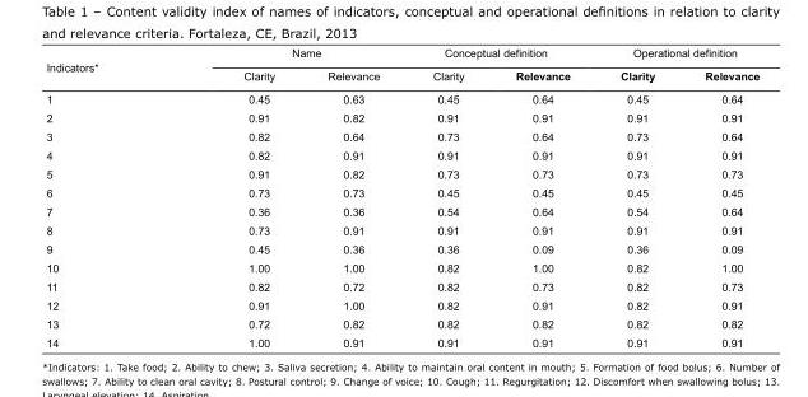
<table><thead><tr><td rowspan="2">Indicators*</td><td colspan="2">Name</td><td colspan="2">Conceptual definition</td><td colspan="2">Operational definition</td></tr><tr><td>Clarity</td><td>Relevance</td><td>Clarity</td><td>Relevance</td><td>Clarity</td><td>Relevance</td></tr></thead><tbody><tr><td>1</td><td>0.45</td><td>0.63</td><td>0.45</td><td>0.64</td><td>0.45</td><td>0.64</td></tr><tr><td>2</td><td>0.91</td><td>0.82</td><td>0.91</td><td>0.91</td><td>0.91</td><td>0.91</td></tr><tr><td>3</td><td>0.82</td><td>0.64</td><td>0.73</td><td>0.64</td><td>0.73</td><td>0.64</td></tr><tr><td>4</td><td>0.82</td><td>0.91</td><td>0.91</td><td>0.91</td><td>0.91</td><td>0.91</td></tr><tr><td>5</td><td>0.91</td><td>0.82</td><td>0.73</td><td>0.73</td><td>0.73</td><td>0.73</td></tr><tr><td>6</td><td>0.73</td><td>0.73</td><td>0.45</td><td>0.45</td><td>0.45</td><td>0.45</td></tr><tr><td>7</td><td>0.36</td><td>0.36</td><td>0.54</td><td>0.64</td><td>0.54</td><td>0.64</td></tr><tr><td>8</td><td>0.73</td><td>0.91</td><td>0.91</td><td>0.91</td><td>0.91</td><td>0.91</td></tr><tr><td>9</td><td>0.45</td><td>0.36</td><td>0.36</td><td>0.09</td><td>0.36</td><td>0.09</td></tr><tr><td>10</td><td>1.00</td><td>1.00</td><td>0.82</td><td>1.00</td><td>0.82</td><td>1.00</td></tr><tr><td>11</td><td>0.82</td><td>0.72</td><td>0.82</td><td>0.73</td><td>0.82</td><td>0.73</td></tr><tr><td>12</td><td>0.91</td><td>1.00</td><td>0.82</td><td>0.91</td><td>0.82</td><td>0.91</td></tr><tr><td>13</td><td>0.72</td><td>0.82</td><td>0.82</td><td>0.82</td><td>0.82</td><td>0.82</td></tr><tr><td>14</td><td>1.00</td><td>0.91</td><td>0.91</td><td>0.91</td><td>0.91</td><td>0.91</td></tr></tbody></table>